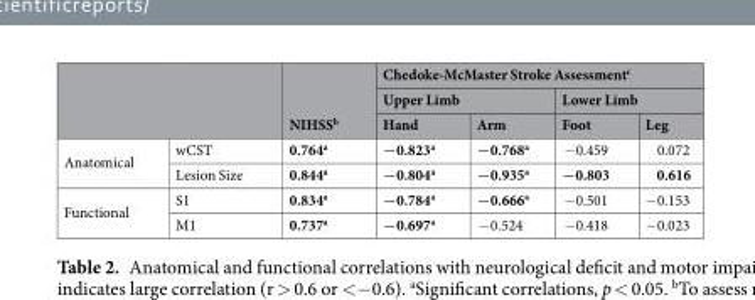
<table><thead><tr><td rowspan="3"></td><td rowspan="3"></td><td rowspan="3">NIHSS<sup>b</sup></td><td colspan="4">Chedoke-McMaster Stroke Assessment<sup>c</sup></td></tr><tr><td colspan="2">Upper Limb</td><td colspan="2">Lower Limb</td></tr><tr><td>Hand</td><td>Arm</td><td>Foot</td><td>Leg</td></tr></thead><tbody><tr><td rowspan="2">Anatomical</td><td>wCST</td><td>0.764<sup>a</sup></td><td>−0.823<sup>a</sup></td><td>−0.768<sup>a</sup></td><td>−0.459</td><td>0.072</td></tr><tr><td>Lesion Size</td><td>0.844<sup>a</sup></td><td>−0.804<sup>a</sup></td><td>−0.935<sup>a</sup></td><td>−0.803</td><td>0.616</td></tr><tr><td rowspan="2">Functional</td><td>S1</td><td>0.834<sup>a</sup></td><td>−0.784<sup>a</sup></td><td>−0.666<sup>a</sup></td><td>−0.501</td><td>−0.153</td></tr><tr><td>M1</td><td>0.737<sup>a</sup></td><td>−0.697<sup>a</sup></td><td>−0.524</td><td>−0.418</td><td>−0.023</td></tr></tbody></table>